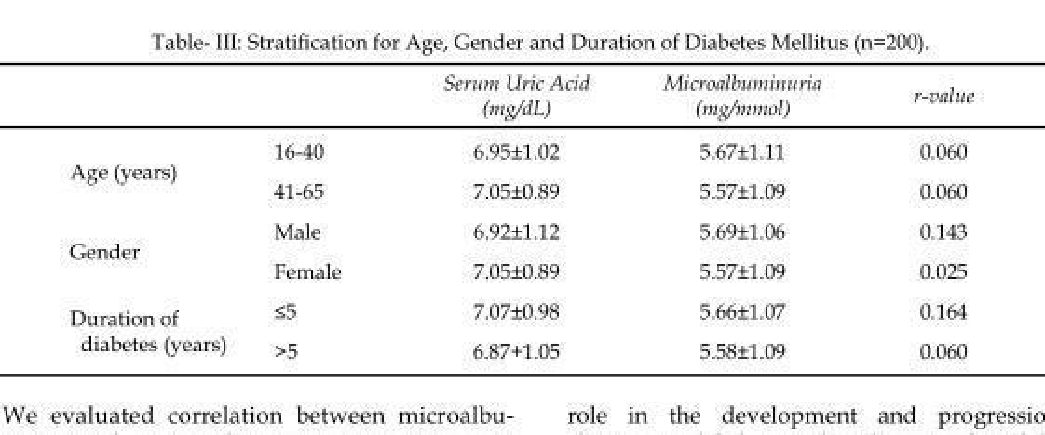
<table><thead><tr><td></td><td></td><td>Serum Uric Acid (mg/dL)</td><td>Microalbuminuria (mg/mmol)</td><td>r-value</td></tr></thead><tbody><tr><td rowspan="2">Age (years)</td><td>16-40</td><td>6.95±1.02</td><td>5.67±1.11</td><td>0.060</td></tr><tr><td>41-65</td><td>7.05±0.89</td><td>5.57±1.09</td><td>0.060</td></tr><tr><td rowspan="2">Gender</td><td>Male</td><td>6.92±1.12</td><td>5.69±1.06</td><td>0.143</td></tr><tr><td>Female</td><td>7.05±0.89</td><td>5.57±1.09</td><td>0.025</td></tr><tr><td rowspan="2">Duration of diabetes (years)</td><td>≤5</td><td>7.07±0.98</td><td>5.66±1.07</td><td>0.164</td></tr><tr><td>&gt;5</td><td>6.87+1.05</td><td>5.58±1.09</td><td>0.060</td></tr></tbody></table>